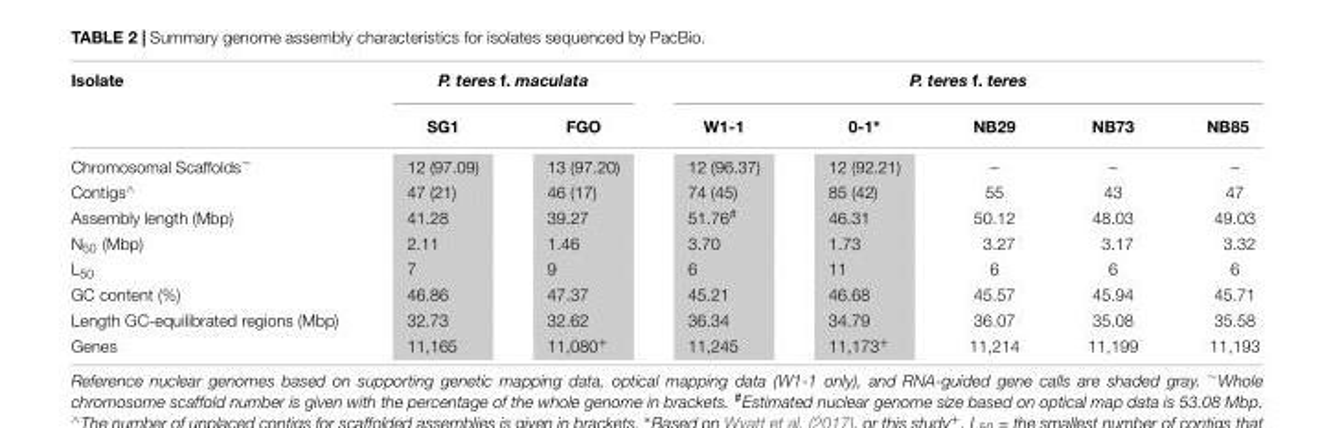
<table><thead><tr><td rowspan="2">Isolate</td><td colspan="2">P. teres f. maculata</td><td colspan="5">P. teres f. teres</td></tr><tr><td>SG1</td><td>FGO</td><td>W1-1</td><td>0-1∗</td><td>NB29</td><td>NB73</td><td>NB85</td></tr></thead><tbody><tr><td>Chromosomal Scaffolds<sup>∼</sup></td><td>12 (97.09)</td><td>13 (97.20)</td><td>12 (96.37)</td><td>12 (92.21)</td><td>–</td><td>–</td><td>–</td></tr><tr><td>Contigs<sup>∧</sup></td><td>47 (21)</td><td>46 (17)</td><td>74 (45)</td><td>85 (42)</td><td>55</td><td>43</td><td>47</td></tr><tr><td>Assembly length (Mbp)</td><td>41.28</td><td>39.27</td><td>51.76<sup>#</sup></td><td>46.31</td><td>50.12</td><td>48.03</td><td>49.03</td></tr><tr><td>N<sub>50</sub> (Mbp)</td><td>2.11</td><td>1.46</td><td>3.70</td><td>1.73</td><td>3.27</td><td>3.17</td><td>3.32</td></tr><tr><td>L<sub>50</sub></td><td>7</td><td>9</td><td>6</td><td>11</td><td>6</td><td>6</td><td>6</td></tr><tr><td>GC content (%)</td><td>46.86</td><td>47.37</td><td>45.21</td><td>46.68</td><td>45.57</td><td>45.94</td><td>45.71</td></tr><tr><td>Length GC-equilibrated regions (Mbp)</td><td>32.73</td><td>32.62</td><td>36.34</td><td>34.79</td><td>36.07</td><td>35.08</td><td>35.58</td></tr><tr><td>Genes</td><td>11,165</td><td>11,080<sup>+</sup></td><td>11,245</td><td>11,173<sup>+</sup></td><td>11,214</td><td>11,199</td><td>11,193</td></tr></tbody></table>